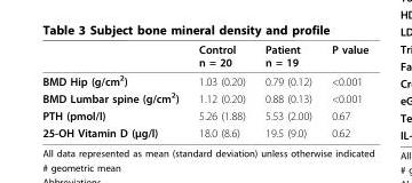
<table><thead><tr><td></td><td>Control n = 20</td><td>Patient n = 19</td><td>P value</td></tr></thead><tbody><tr><td>BMD Hip (g/cm<sup>2</sup>)</td><td>1.03 (0.20)</td><td>0.79 (0.12)</td><td>&lt;0.001</td></tr><tr><td>BMD Lumbar spine (g/cm<sup>2</sup>)</td><td>1.12 (0.20)</td><td>0.88 (0.13)</td><td>&lt;0.001</td></tr><tr><td>PTH (pmol/l)</td><td>5.26 (1.88)</td><td>5.53 (2.00)</td><td>0.67</td></tr><tr><td>25-OH Vitamin D (μg/l)</td><td>18.0 (8.6)</td><td>19.5 (9.0)</td><td>0.62</td></tr></tbody></table>